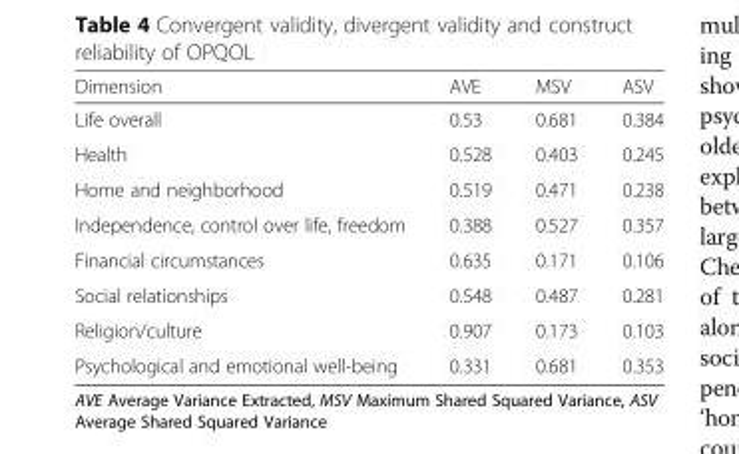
<table><thead><tr><td>Dimension</td><td>AVE</td><td>MSV</td><td>ASV</td></tr></thead><tbody><tr><td>Life overall</td><td>0.53</td><td>0.681</td><td>0.384</td></tr><tr><td>Health</td><td>0.528</td><td>0.403</td><td>0.245</td></tr><tr><td>Home and neighborhood</td><td>0.519</td><td>0.471</td><td>0.238</td></tr><tr><td>Independence, control over life, freedom</td><td>0.388</td><td>0.527</td><td>0.357</td></tr><tr><td>Financial circumstances</td><td>0.635</td><td>0.171</td><td>0.106</td></tr><tr><td>Social relationships</td><td>0.548</td><td>0.487</td><td>0.281</td></tr><tr><td>Religion/culture</td><td>0.907</td><td>0.173</td><td>0.103</td></tr><tr><td>Psychological and emotional well-being</td><td>0.331</td><td>0.681</td><td>0.353</td></tr></tbody></table>